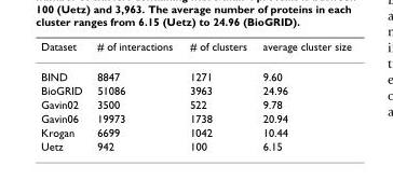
<table><thead><tr><td>Dataset</td><td># of interactions</td><td># of clusters</td><td>average cluster size</td></tr></thead><tbody><tr><td>BIND</td><td>8847</td><td>1271</td><td>9.60</td></tr><tr><td>BioGRID</td><td>51086</td><td>3963</td><td>24.96</td></tr><tr><td>Gavin02</td><td>3500</td><td>522</td><td>9.78</td></tr><tr><td>Gavin06</td><td>19973</td><td>1738</td><td>20.94</td></tr><tr><td>Krogan</td><td>6699</td><td>1042</td><td>10.44</td></tr><tr><td>Uetz</td><td>942</td><td>100</td><td>6.15</td></tr></tbody></table>